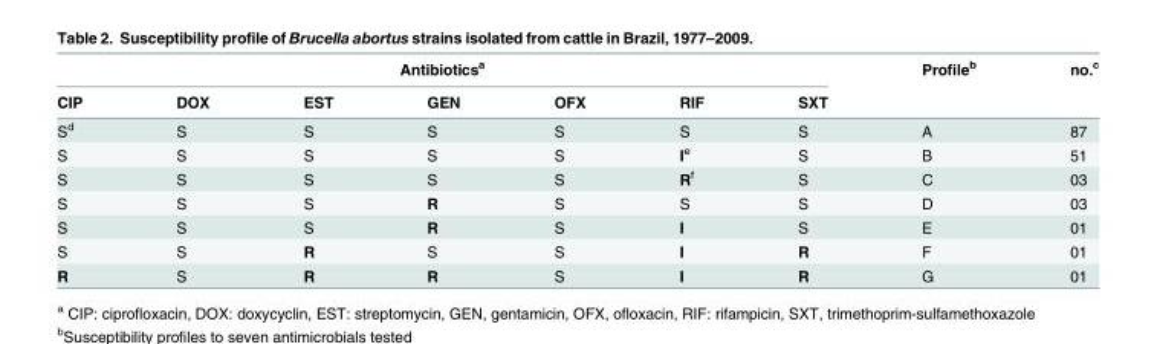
<table><thead><tr><td colspan="7">Antibiotics<sup>a</sup></td><td rowspan="2">Profile<sup>b</sup></td><td rowspan="2">no.<sup>c</sup></td></tr><tr><td>CIP</td><td>DOX</td><td>EST</td><td>GEN</td><td>OFX</td><td>RIF</td><td>SXT</td></tr></thead><tbody><tr><td>S<sup>d</sup></td><td>S</td><td>S</td><td>S</td><td>S</td><td>S</td><td>S</td><td>A</td><td>87</td></tr><tr><td>S</td><td>S</td><td>S</td><td>S</td><td>S</td><td>I<sup>e</sup></td><td>S</td><td>B</td><td>51</td></tr><tr><td>S</td><td>S</td><td>S</td><td>S</td><td>S</td><td>R<sup>f</sup></td><td>S</td><td>C</td><td>03</td></tr><tr><td>S</td><td>S</td><td>S</td><td>R</td><td>S</td><td>S</td><td>S</td><td>D</td><td>03</td></tr><tr><td>S</td><td>S</td><td>S</td><td>R</td><td>S</td><td>I</td><td>S</td><td>E</td><td>01</td></tr><tr><td>S</td><td>S</td><td>R</td><td>S</td><td>S</td><td>I</td><td>R</td><td>F</td><td>01</td></tr><tr><td>R</td><td>S</td><td>R</td><td>R</td><td>S</td><td>I</td><td>R</td><td>G</td><td>01</td></tr></tbody></table>